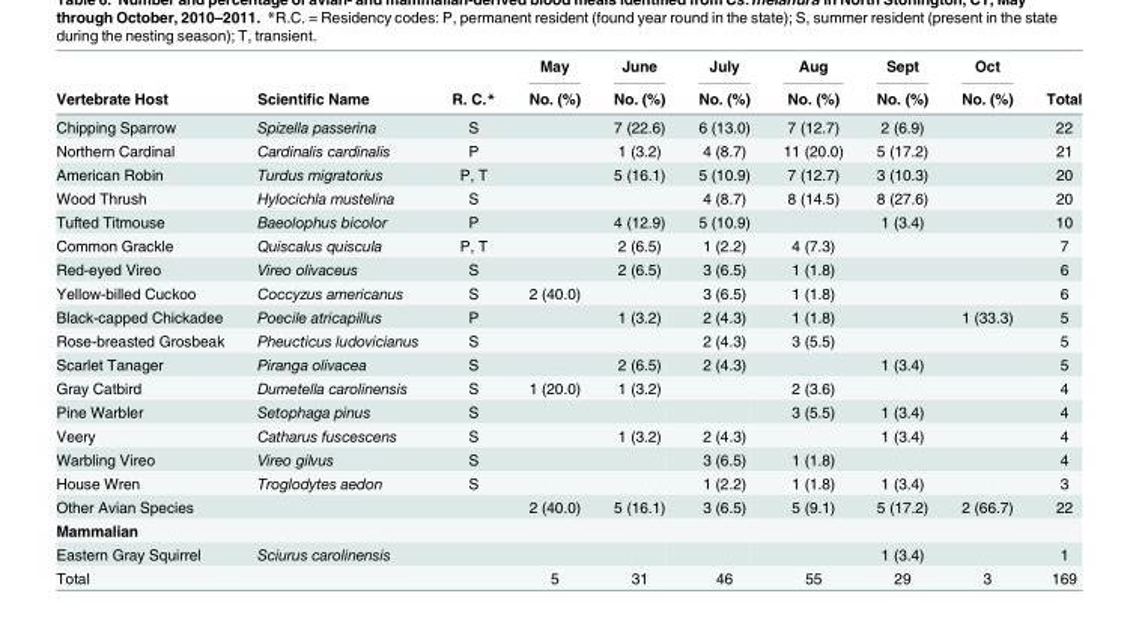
<table><thead><tr><td rowspan="2">Vertebrate Host</td><td rowspan="2">Scientific Name</td><td rowspan="2">R. C.*</td><td rowspan="2">May No. (%)</td><td rowspan="2">June No. (%)</td><td rowspan="2">July No. (%)</td><td rowspan="2">Aug No. (%)</td><td rowspan="2">Sept No. (%)</td><td rowspan="2">Oct No. (%)</td><td rowspan="2">Total</td></tr><tr></tr></thead><tbody><tr><td>Chipping Sparrow</td><td>Spizella passerina</td><td>S</td><td></td><td>7 (22.6)</td><td>6 (13.0)</td><td>7 (12.7)</td><td>2 (6.9)</td><td></td><td>22</td></tr><tr><td>Northern Cardinal</td><td>Cardinalis cardinalis</td><td>P</td><td></td><td>1 (3.2)</td><td>4 (8.7)</td><td>11 (20.0)</td><td>5 (17.2)</td><td></td><td>21</td></tr><tr><td>American Robin</td><td>Turdus migratorius</td><td>P, T</td><td></td><td>5 (16.1)</td><td>5 (10.9)</td><td>7 (12.7)</td><td>3 (10.3)</td><td></td><td>20</td></tr><tr><td>Wood Thrush</td><td>Hylocichla mustelina</td><td>S</td><td></td><td></td><td>4 (8.7)</td><td>8 (14.5)</td><td>8 (27.6)</td><td></td><td>20</td></tr><tr><td>Tufted Titmouse</td><td>Baeolophus bicolor</td><td>P</td><td></td><td>4 (12.9)</td><td>5 (10.9)</td><td></td><td>1 (3.4)</td><td></td><td>10</td></tr><tr><td>Common Grackle</td><td>Quiscalus quiscula</td><td>P, T</td><td></td><td>2 (6.5)</td><td>1 (2.2)</td><td>4 (7.3)</td><td></td><td></td><td>7</td></tr><tr><td>Red-eyed Vireo</td><td>Vireo olivaceus</td><td>S</td><td></td><td>2 (6.5)</td><td>3 (6.5)</td><td>1 (1.8)</td><td></td><td></td><td>6</td></tr><tr><td>Yellow-billed Cuckoo</td><td>Coccyzus americanus</td><td>S</td><td>2 (40.0)</td><td></td><td>3 (6.5)</td><td>1 (1.8)</td><td></td><td></td><td>6</td></tr><tr><td>Black-capped Chickadee</td><td>Poecile atricapillus</td><td>P</td><td></td><td>1 (3.2)</td><td>2 (4.3)</td><td>1 (1.8)</td><td></td><td>1 (33.3)</td><td>5</td></tr><tr><td>Rose-breasted Grosbeak</td><td>Pheucticus ludovicianus</td><td>S</td><td></td><td></td><td>2 (4.3)</td><td>3 (5.5)</td><td></td><td></td><td>5</td></tr><tr><td>Scarlet Tanager</td><td>Piranga olivacea</td><td>S</td><td></td><td>2 (6.5)</td><td>2 (4.3)</td><td></td><td>1 (3.4)</td><td></td><td>5</td></tr><tr><td>Gray Catbird</td><td>Dumetella carolinensis</td><td>S</td><td>1 (20.0)</td><td>1 (3.2)</td><td></td><td>2 (3.6)</td><td></td><td></td><td>4</td></tr><tr><td>Pine Warbler</td><td>Setophaga pinus</td><td>S</td><td></td><td></td><td></td><td>3 (5.5)</td><td>1 (3.4)</td><td></td><td>4</td></tr><tr><td>Veery</td><td>Catharus fuscescens</td><td>S</td><td></td><td>1 (3.2)</td><td>2 (4.3)</td><td></td><td>1 (3.4)</td><td></td><td>4</td></tr><tr><td>Warbling Vireo</td><td>Vireo gilvus</td><td>S</td><td></td><td></td><td>3 (6.5)</td><td>1 (1.8)</td><td></td><td></td><td>4</td></tr><tr><td>House Wren</td><td>Troglodytes aedon</td><td>S</td><td></td><td></td><td>1 (2.2)</td><td>1 (1.8)</td><td>1 (3.4)</td><td></td><td>3</td></tr><tr><td>Other Avian Species</td><td></td><td></td><td>2 (40.0)</td><td>5 (16.1)</td><td>3 (6.5)</td><td>5 (9.1)</td><td>5 (17.2)</td><td>2 (66.7)</td><td>22</td></tr><tr><td colspan="10">Mammalian</td></tr><tr><td>Eastern Gray Squirrel</td><td>Sciurus carolinensis</td><td></td><td></td><td></td><td></td><td></td><td>1 (3.4)</td><td></td><td>1</td></tr><tr><td>Total</td><td></td><td></td><td>5</td><td>31</td><td>46</td><td>55</td><td>29</td><td>3</td><td>169</td></tr></tbody></table>